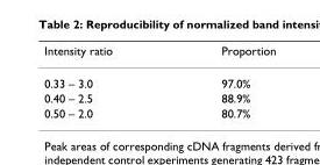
<table><thead><tr><td>Intensity ratio</td><td>Proportion</td></tr></thead><tbody><tr><td>0.33 – 3.0</td><td>97.0%</td></tr><tr><td>0.40 – 2.5</td><td>88.9%</td></tr><tr><td>0.50 – 2.0</td><td>80.7%</td></tr></tbody></table>